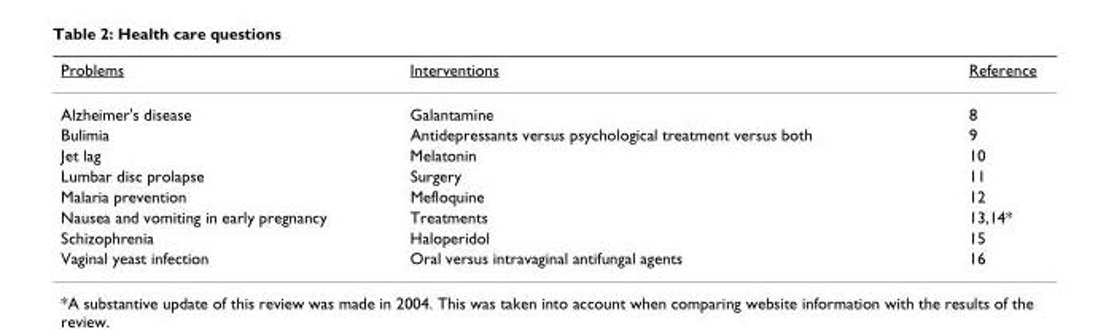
<table><thead><tr><td>Problems</td><td>Interventions</td><td>Reference</td></tr></thead><tbody><tr><td>Alzheimer&#x27;s disease</td><td>Galantamine</td><td>8</td></tr><tr><td>Bulimia</td><td>Antidepressants versus psychological treatment versus both</td><td>9</td></tr><tr><td>Jet lag</td><td>Melatonin</td><td>10</td></tr><tr><td>Lumbar disc prolapse</td><td>Surgery</td><td>11</td></tr><tr><td>Malaria prevention</td><td>Mefloquine</td><td>12</td></tr><tr><td>Nausea and vomiting in early pregnancy</td><td>Treatments</td><td>13,14*</td></tr><tr><td>Schizophrenia</td><td>Haloperidol</td><td>15</td></tr><tr><td>Vaginal yeast infection</td><td>Oral versus intravaginal antifungal agents</td><td>16</td></tr></tbody></table>